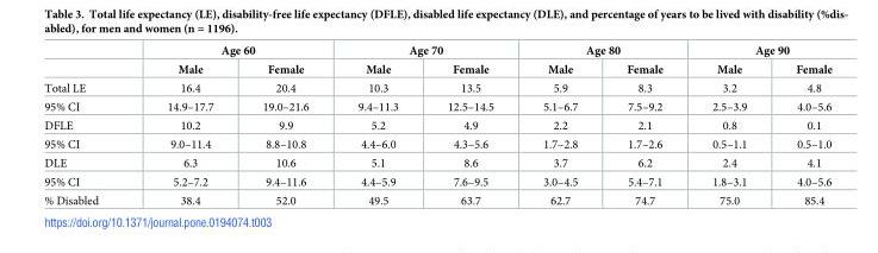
<table><thead><tr><td rowspan="2"></td><td colspan="2">Age 60</td><td colspan="2">Age 70</td><td colspan="2">Age 80</td><td colspan="2">Age 90</td></tr><tr><td>Male</td><td>Female</td><td>Male</td><td>Female</td><td>Male</td><td>Female</td><td>Male</td><td>Female</td></tr></thead><tbody><tr><td>Total LE</td><td>16.4</td><td>20.4</td><td>10.3</td><td>13.5</td><td>5.9</td><td>8.3</td><td>3.2</td><td>4.8</td></tr><tr><td>95% CI</td><td>14.9–17.7</td><td>19.0–21.6</td><td>9.4–11.3</td><td>12.5–14.5</td><td>5.1–6.7</td><td>7.5–9.2</td><td>2.5–3.9</td><td>4.0–5.6</td></tr><tr><td>DFLE</td><td>10.2</td><td>9.9</td><td>5.2</td><td>4.9</td><td>2.2</td><td>2.1</td><td>0.8</td><td>0.1</td></tr><tr><td>95% CI</td><td>9.0–11.4</td><td>8.8–10.8</td><td>4.4–6.0</td><td>4.3–5.6</td><td>1.7–2.8</td><td>1.7–2.6</td><td>0.5–1.1</td><td>0.5–1.0</td></tr><tr><td>DLE</td><td>6.3</td><td>10.6</td><td>5.1</td><td>8.6</td><td>3.7</td><td>6.2</td><td>2.4</td><td>4.1</td></tr><tr><td>95% CI</td><td>5.2–7.2</td><td>9.4–11.6</td><td>4.4–5.9</td><td>7.6–9.5</td><td>3.0–4.5</td><td>5.4–7.1</td><td>1.8–3.1</td><td>4.0–5.6</td></tr><tr><td>% Disabled</td><td>38.4</td><td>52.0</td><td>49.5</td><td>63.7</td><td>62.7</td><td>74.7</td><td>75.0</td><td>85.4</td></tr></tbody></table>